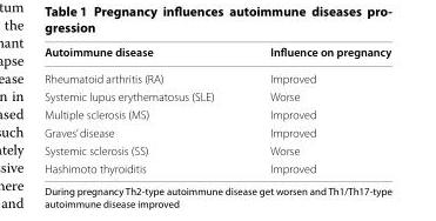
<table><thead><tr><td>Autoimmune disease</td><td>Influence on pregnancy</td></tr></thead><tbody><tr><td>Rheumatoid arthritis (RA)</td><td>Improved</td></tr><tr><td>Systemic lupus erythematosus (SLE)</td><td>Worse</td></tr><tr><td>Multiple sclerosis (MS)</td><td>Improved</td></tr><tr><td>Graves’ disease</td><td>Improved</td></tr><tr><td>Systemic sclerosis (SS)</td><td>Worse</td></tr><tr><td>Hashimoto thyroiditis</td><td>Improved</td></tr></tbody></table>